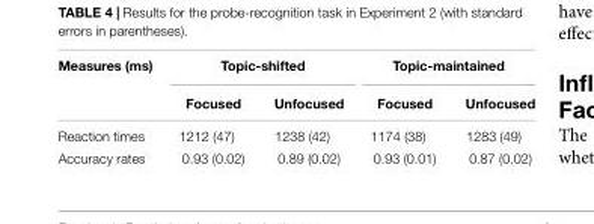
<table><thead><tr><td rowspan="2">Measures (ms)</td><td colspan="2">Topic-shifted</td><td colspan="2">Topic-maintained</td></tr><tr><td>Focused</td><td>Unfocused</td><td>Focused</td><td>Unfocused</td></tr></thead><tbody><tr><td>Reaction times</td><td>1212 (47)</td><td>1238 (42)</td><td>1174 (38)</td><td>1283 (49)</td></tr><tr><td>Accuracy rates</td><td>0.93 (0.02)</td><td>0.89 (0.02)</td><td>0.93 (0.01)</td><td>0.87 (0.02)</td></tr></tbody></table>